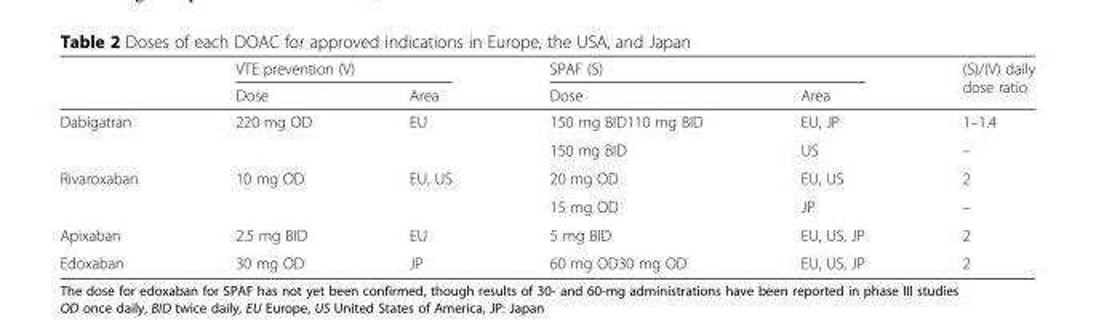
<table><thead><tr><td rowspan="2"></td><td colspan="2">VTE prevention (V)</td><td colspan="2">SPAF (S)</td><td rowspan="2">(S)/(V) daily dose ratio</td></tr><tr><td>Dose</td><td>Area</td><td>Dose</td><td>Area</td></tr></thead><tbody><tr><td rowspan="2">Dabigatran</td><td rowspan="2">220 mg OD</td><td rowspan="2">EU</td><td>150 mg BID110 mg BID</td><td>EU, JP</td><td>1–1.4</td></tr><tr><td>150 mg BID</td><td>US</td><td>–</td></tr><tr><td rowspan="2">Rivaroxaban</td><td rowspan="2">10 mg OD</td><td rowspan="2">EU, US</td><td>20 mg OD</td><td>EU, US</td><td>2</td></tr><tr><td>15 mg OD</td><td>JP</td><td>–</td></tr><tr><td>Apixaban</td><td>2.5 mg BID</td><td>EU</td><td>5 mg BID</td><td>EU, US, JP</td><td>2</td></tr><tr><td>Edoxaban</td><td>30 mg OD</td><td>JP</td><td>60 mg OD30 mg OD</td><td>EU, US, JP</td><td>2</td></tr></tbody></table>